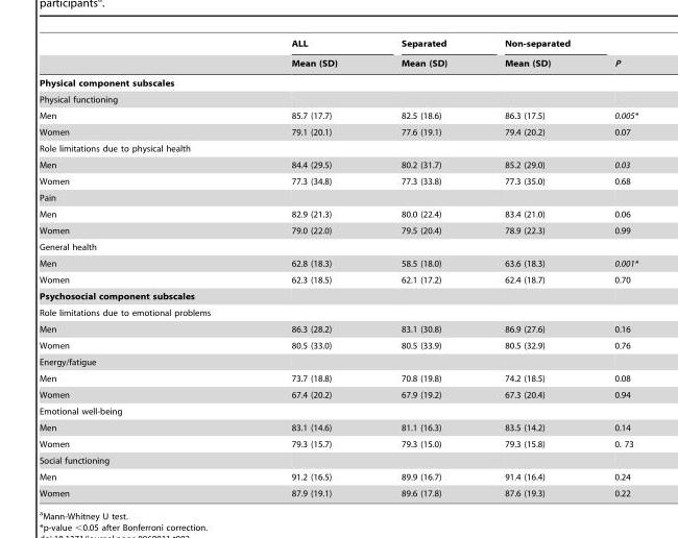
<table><thead><tr><td rowspan="2"></td><td rowspan="2">ALL Mean (SD)</td><td rowspan="2">Separated Mean (SD)</td><td rowspan="2">Non-separated Mean (SD)</td><td rowspan="2">P</td></tr><tr></tr></thead><tbody><tr><td colspan="5">Physical component subscales</td></tr><tr><td colspan="5">Physical functioning</td></tr><tr><td>Men</td><td>85.7 (17.7)</td><td>82.5 (18.6)</td><td>86.3 (17.5)</td><td>0.005*</td></tr><tr><td>Women</td><td>79.1 (20.1)</td><td>77.6 (19.1)</td><td>79.4 (20.2)</td><td>0.07</td></tr><tr><td colspan="5">Role limitations due to physical health</td></tr><tr><td>Men</td><td>84.4 (29.5)</td><td>80.2 (31.7)</td><td>85.2 (29.0)</td><td>0.03</td></tr><tr><td>Women</td><td>77.3 (34.8)</td><td>77.3 (33.8)</td><td>77.3 (35.0)</td><td>0.68</td></tr><tr><td colspan="5">Pain</td></tr><tr><td>Men</td><td>82.9 (21.3)</td><td>80.0 (22.4)</td><td>83.4 (21.0)</td><td>0.06</td></tr><tr><td>Women</td><td>79.0 (22.0)</td><td>79.5 (20.4)</td><td>78.9 (22.3)</td><td>0.99</td></tr><tr><td colspan="5">General health</td></tr><tr><td>Men</td><td>62.8 (18.3)</td><td>58.5 (18.0)</td><td>63.6 (18.3)</td><td>0.001*</td></tr><tr><td>Women</td><td>62.3 (18.5)</td><td>62.1 (17.2)</td><td>62.4 (18.7)</td><td>0.70</td></tr><tr><td colspan="5">Psychosocial component subscales</td></tr><tr><td colspan="5">Role limitations due to emotional problems</td></tr><tr><td>Men</td><td>86.3 (28.2)</td><td>83.1 (30.8)</td><td>86.9 (27.6)</td><td>0.16</td></tr><tr><td>Women</td><td>80.5 (33.0)</td><td>80.5 (33.9)</td><td>80.5 (32.9)</td><td>0.76</td></tr><tr><td colspan="5">Energy/fatigue</td></tr><tr><td>Men</td><td>73.7 (18.8)</td><td>70.8 (19.8)</td><td>74.2 (18.5)</td><td>0.08</td></tr><tr><td>Women</td><td>67.4 (20.2)</td><td>67.9 (19.2)</td><td>67.3 (20.4)</td><td>0.94</td></tr><tr><td colspan="5">Emotional well-being</td></tr><tr><td>Men</td><td>83.1 (14.6)</td><td>81.1 (16.3)</td><td>83.5 (14.2)</td><td>0.14</td></tr><tr><td>Women</td><td>79.3 (15.7)</td><td>79.3 (15.0)</td><td>79.3 (15.8)</td><td>0. 73</td></tr><tr><td colspan="5">Social functioning</td></tr><tr><td>Men</td><td>91.2 (16.5)</td><td>89.9 (16.7)</td><td>91.4 (16.4)</td><td>0.24</td></tr><tr><td>Women</td><td>87.9 (19.1)</td><td>89.6 (17.8)</td><td>87.6 (19.3)</td><td>0.22</td></tr></tbody></table>